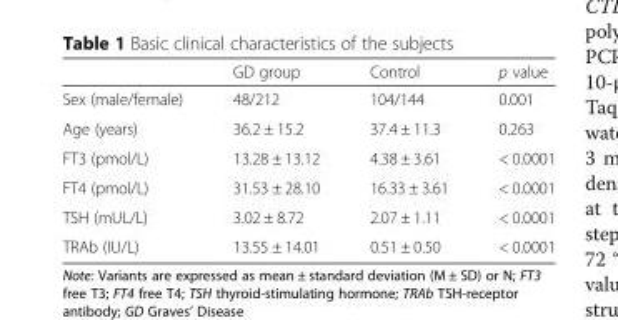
<table><thead><tr><td></td><td>GD group</td><td>Control</td><td>p value</td></tr></thead><tbody><tr><td>Sex (male/female)</td><td>48/212</td><td>104/144</td><td>0.001</td></tr><tr><td>Age (years)</td><td>36.2 ± 15.2</td><td>37.4 ± 11.3</td><td>0.263</td></tr><tr><td>FT3 (pmol/L)</td><td>13.28 ± 13.12</td><td>4.38 ± 3.61</td><td>&lt; 0.0001</td></tr><tr><td>FT4 (pmol/L)</td><td>31.53 ± 28.10</td><td>16.33 ± 3.61</td><td>&lt; 0.0001</td></tr><tr><td>TSH (mUL/L)</td><td>3.02 ± 8.72</td><td>2.07 ± 1.11</td><td>&lt; 0.0001</td></tr><tr><td>TRAb (IU/L)</td><td>13.55 ± 14.01</td><td>0.51 ± 0.50</td><td>&lt; 0.0001</td></tr></tbody></table>